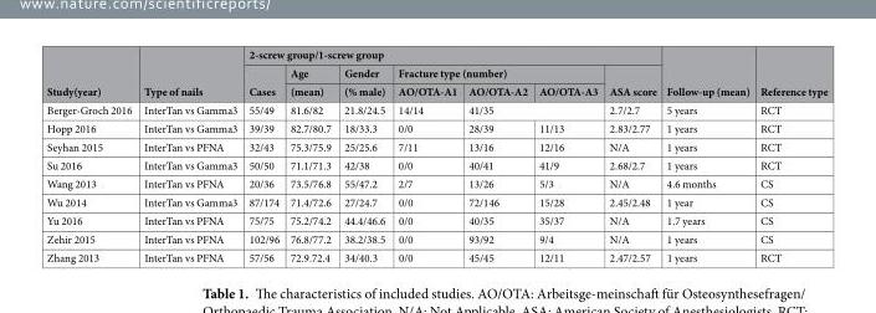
<table><thead><tr><td rowspan="3">Study(year)</td><td rowspan="3">Type of nails</td><td colspan="7">2-screw group/1-screw group</td><td rowspan="3">Follow-up (mean)</td><td rowspan="3">Reference type</td></tr><tr><td rowspan="2">Cases</td><td rowspan="2">Age (mean)</td><td rowspan="2">Gender (% male)</td><td colspan="3">Fracture type (number)</td><td rowspan="2">ASA score</td></tr><tr><td>AO/OTA-A1</td><td>AO/OTA-A2</td><td>AO/OTA-A3</td></tr></thead><tbody><tr><td>Berger-Groch 2016</td><td>InterTan vs Gamma3</td><td>55/49</td><td>81.6/82</td><td>21.8/24.5</td><td>14/14</td><td colspan="2">41/35</td><td>2.7/2.7</td><td>5 years</td><td>RCT</td></tr><tr><td>Hopp 2016</td><td>InterTan vs Gamma3</td><td>39/39</td><td>82.7/80.7</td><td>18/33.3</td><td>0/0</td><td>28/39</td><td>11/13</td><td>2.83/2.77</td><td>1 years</td><td>RCT</td></tr><tr><td>Seyhan 2015</td><td>InterTan vs PFNA</td><td>32/43</td><td>75.3/75.9</td><td>25/25.6</td><td>7/11</td><td>13/16</td><td>12/16</td><td>N/A</td><td>1 years</td><td>RCT</td></tr><tr><td>Su 2016</td><td>InterTan vs Gamma3</td><td>50/50</td><td>71.1/71.3</td><td>42/38</td><td>0/0</td><td>40/41</td><td>41/9</td><td>2.68/2.7</td><td>1 years</td><td>RCT</td></tr><tr><td>Wang 2013</td><td>InterTan vs PFNA</td><td>20/36</td><td>73.5/76.8</td><td>55/47.2</td><td>2/7</td><td>13/26</td><td>5/3</td><td>N/A</td><td>4.6 months</td><td>CS</td></tr><tr><td>Wu 2014</td><td>InterTan vs Gamma3</td><td>87/174</td><td>71.4/72.6</td><td>27/24.7</td><td>0/0</td><td>72/146</td><td>15/28</td><td>2.45/2.48</td><td>1 year</td><td>CS</td></tr><tr><td>Yu 2016</td><td>InterTan vs PFNA</td><td>75/75</td><td>75.2/74.2</td><td>44.4/46.6</td><td>0/0</td><td>40/35</td><td>35/37</td><td>N/A</td><td>1.7 years</td><td>CS</td></tr><tr><td>Zehir 2015</td><td>InterTan vs PFNA</td><td>102/96</td><td>76.8/77.2</td><td>38.2/38.5</td><td>0/0</td><td>93/92</td><td>9/4</td><td>N/A</td><td>1 years</td><td>CS</td></tr><tr><td>Zhang 2013</td><td>InterTan vs PFNA</td><td>57/56</td><td>72.9.72.4</td><td>34/40.3</td><td>0/0</td><td>45/45</td><td>12/11</td><td>2.47/2.57</td><td>1 years</td><td>RCT</td></tr></tbody></table>